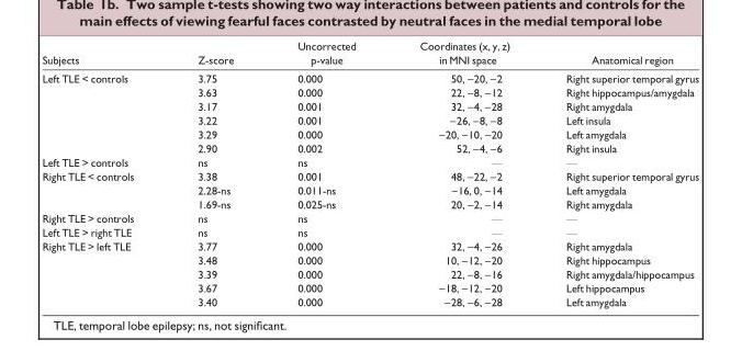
<table><thead><tr><td rowspan="2">Subjects</td><td rowspan="2">Z-score</td><td rowspan="2">Uncorrected p-value</td><td rowspan="2">Coordinates (x, y, z) in MNI space</td><td rowspan="2">Anatomical region</td></tr><tr></tr></thead><tbody><tr><td rowspan="6">Left TLE &lt; controls</td><td>3.75</td><td>0.000</td><td>50, −20, −2</td><td>Right superior temporal gyrus</td></tr><tr><td>3.63</td><td>0.000</td><td>22, −8, −12</td><td>Right hippocampus/amygdala</td></tr><tr><td>3.17</td><td>0.001</td><td>32, −4, −28</td><td>Right amygdala</td></tr><tr><td>3.22</td><td>0.001</td><td>−26, −8, −8</td><td>Left insula</td></tr><tr><td>3.29</td><td>0.000</td><td>−20, −10, −20</td><td>Left amygdala</td></tr><tr><td>2.90</td><td>0.002</td><td>52, −4, −6</td><td>Right insula</td></tr><tr><td>Left TLE &gt; controls</td><td>ns</td><td>ns</td><td>—</td><td>—</td></tr><tr><td rowspan="3">Right TLE &lt; controls</td><td>3.38</td><td>0.001</td><td>48, −22, −2</td><td>Right superior temporal gyrus</td></tr><tr><td>2.28-ns</td><td>0.011-ns</td><td>−16, 0, −14</td><td>Left amygdala</td></tr><tr><td>1.69-ns</td><td>0.025-ns</td><td>20, −2, −14</td><td>Right amygdala</td></tr><tr><td>Right TLE &gt; controls</td><td>ns</td><td>ns</td><td>—</td><td>—</td></tr><tr><td>Left TLE &gt; right TLE</td><td>ns</td><td>ns</td><td>—</td><td>—</td></tr><tr><td rowspan="5">Right TLE &gt; left TLE</td><td>3.77</td><td>0.000</td><td>32, −4, −26</td><td>Right amygdala</td></tr><tr><td>3.48</td><td>0.000</td><td>10, −12, −20</td><td>Right hippocampus</td></tr><tr><td>3.39</td><td>0.000</td><td>22, −8, −16</td><td>Right amygdala/hippocampus</td></tr><tr><td>3.67</td><td>0.000</td><td>−18, −12, −20</td><td>Left hippocampus</td></tr><tr><td>3.40</td><td>0.000</td><td>−28, −6, −28</td><td>Left amygdala</td></tr></tbody></table>